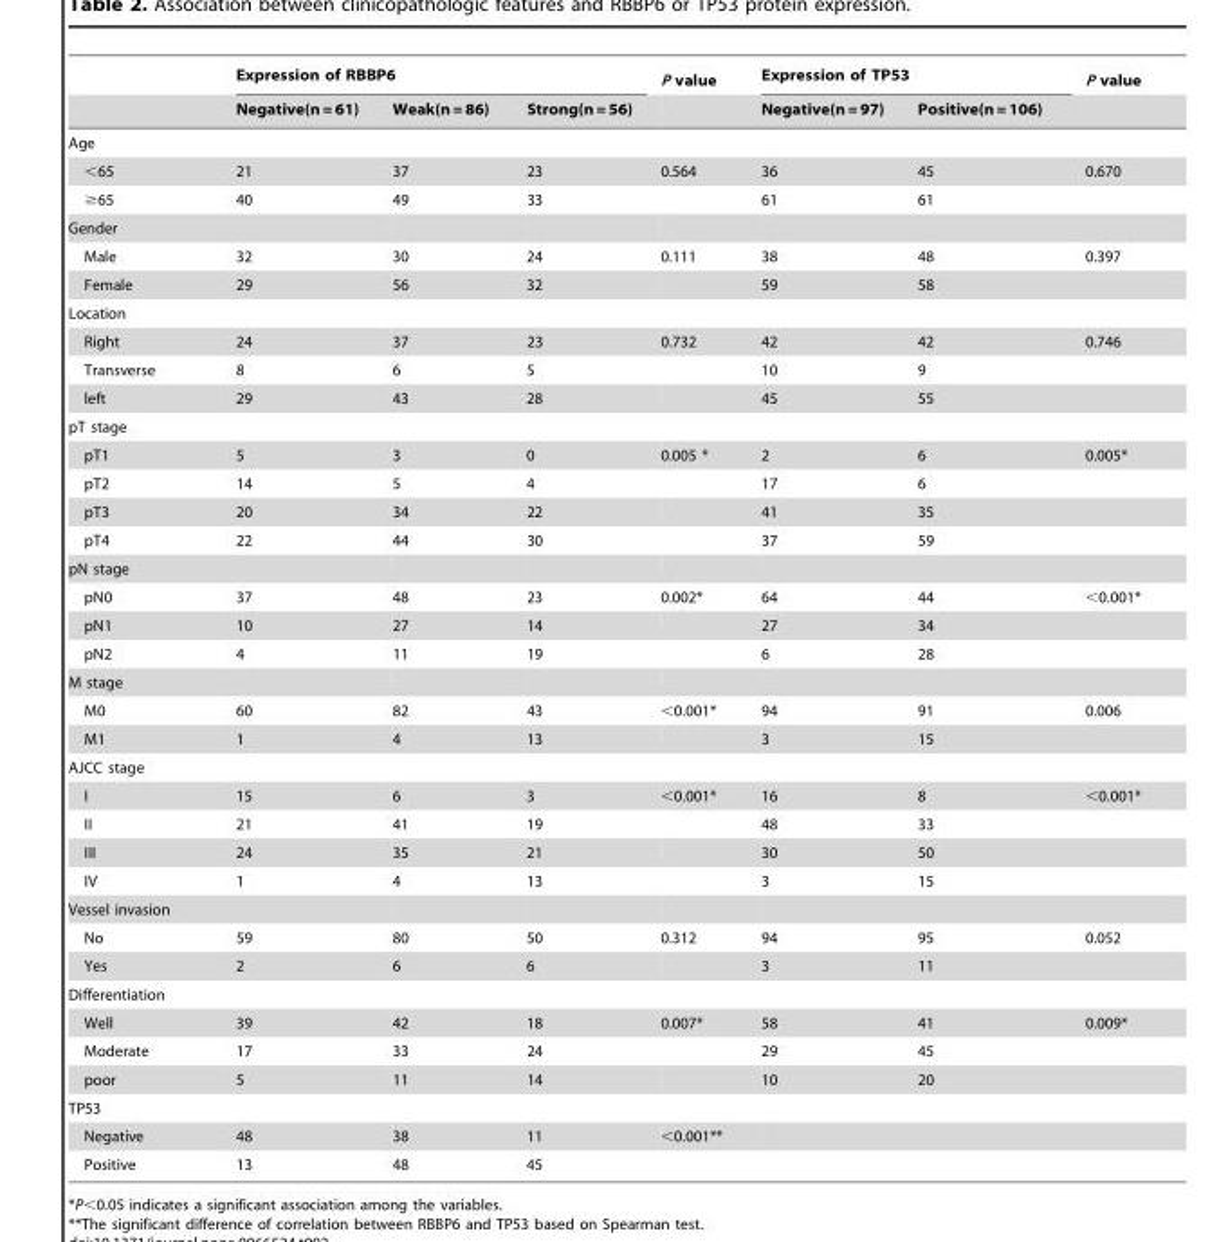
<table><thead><tr><td rowspan="2"></td><td colspan="3">Expression of RBBP6</td><td rowspan="2">P value</td><td colspan="2">Expression of TP53</td><td rowspan="2">P value</td></tr><tr><td>Negative(n = 61)</td><td>Weak(n = 86)</td><td>Strong(n = 56)</td><td>Negative(n = 97)</td><td>Positive(n = 106)</td></tr></thead><tbody><tr><td colspan="8">Age</td></tr><tr><td>&lt;65</td><td>21</td><td>37</td><td>23</td><td>0.564</td><td>36</td><td>45</td><td>0.670</td></tr><tr><td>≥65</td><td>40</td><td>49</td><td>33</td><td></td><td>61</td><td>61</td><td></td></tr><tr><td colspan="8">Gender</td></tr><tr><td>Male</td><td>32</td><td>30</td><td>24</td><td>0.111</td><td>38</td><td>48</td><td>0.397</td></tr><tr><td>Female</td><td>29</td><td>56</td><td>32</td><td></td><td>59</td><td>58</td><td></td></tr><tr><td colspan="8">Location</td></tr><tr><td>Right</td><td>24</td><td>37</td><td>23</td><td>0.732</td><td>42</td><td>42</td><td>0.746</td></tr><tr><td>Transverse</td><td>8</td><td>6</td><td>5</td><td></td><td>10</td><td>9</td><td></td></tr><tr><td>left</td><td>29</td><td>43</td><td>28</td><td></td><td>45</td><td>55</td><td></td></tr><tr><td colspan="8">pT stage</td></tr><tr><td>pT1</td><td>5</td><td>3</td><td>0</td><td>0.005 *</td><td>2</td><td>6</td><td>0.005*</td></tr><tr><td>pT2</td><td>14</td><td>5</td><td>4</td><td></td><td>17</td><td>6</td><td></td></tr><tr><td>pT3</td><td>20</td><td>34</td><td>22</td><td></td><td>41</td><td>35</td><td></td></tr><tr><td>pT4</td><td>22</td><td>44</td><td>30</td><td></td><td>37</td><td>59</td><td></td></tr><tr><td colspan="8">pN stage</td></tr><tr><td>pN0</td><td>37</td><td>48</td><td>23</td><td>0.002*</td><td>64</td><td>44</td><td>&lt;0.001*</td></tr><tr><td>pN1</td><td>10</td><td>27</td><td>14</td><td></td><td>27</td><td>34</td><td></td></tr><tr><td>pN2</td><td>4</td><td>11</td><td>19</td><td></td><td>6</td><td>28</td><td></td></tr><tr><td colspan="8">M stage</td></tr><tr><td>M0</td><td>60</td><td>82</td><td>43</td><td>&lt;0.001*</td><td>94</td><td>91</td><td>0.006</td></tr><tr><td>M1</td><td>1</td><td>4</td><td>13</td><td></td><td>3</td><td>15</td><td></td></tr><tr><td colspan="8">AJCC stage</td></tr><tr><td>I</td><td>15</td><td>6</td><td>3</td><td>&lt;0.001*</td><td>16</td><td>8</td><td>&lt;0.001*</td></tr><tr><td>II</td><td>21</td><td>41</td><td>19</td><td></td><td>48</td><td>33</td><td></td></tr><tr><td>III</td><td>24</td><td>35</td><td>21</td><td></td><td>30</td><td>50</td><td></td></tr><tr><td>IV</td><td>1</td><td>4</td><td>13</td><td></td><td>3</td><td>15</td><td></td></tr><tr><td colspan="8">Vessel invasion</td></tr><tr><td>No</td><td>59</td><td>80</td><td>50</td><td>0.312</td><td>94</td><td>95</td><td>0.052</td></tr><tr><td>Yes</td><td>2</td><td>6</td><td>6</td><td></td><td>3</td><td>11</td><td></td></tr><tr><td colspan="8">Differentiation</td></tr><tr><td>Well</td><td>39</td><td>42</td><td>18</td><td>0.007*</td><td>58</td><td>41</td><td>0.009*</td></tr><tr><td>Moderate</td><td>17</td><td>33</td><td>24</td><td></td><td>29</td><td>45</td><td></td></tr><tr><td>poor</td><td>5</td><td>11</td><td>14</td><td></td><td>10</td><td>20</td><td></td></tr><tr><td colspan="8">TP53</td></tr><tr><td>Negative</td><td>48</td><td>38</td><td>11</td><td>&lt;0.001**</td><td></td><td></td><td></td></tr><tr><td>Positive</td><td>13</td><td>48</td><td>45</td><td></td><td></td><td></td><td></td></tr></tbody></table>